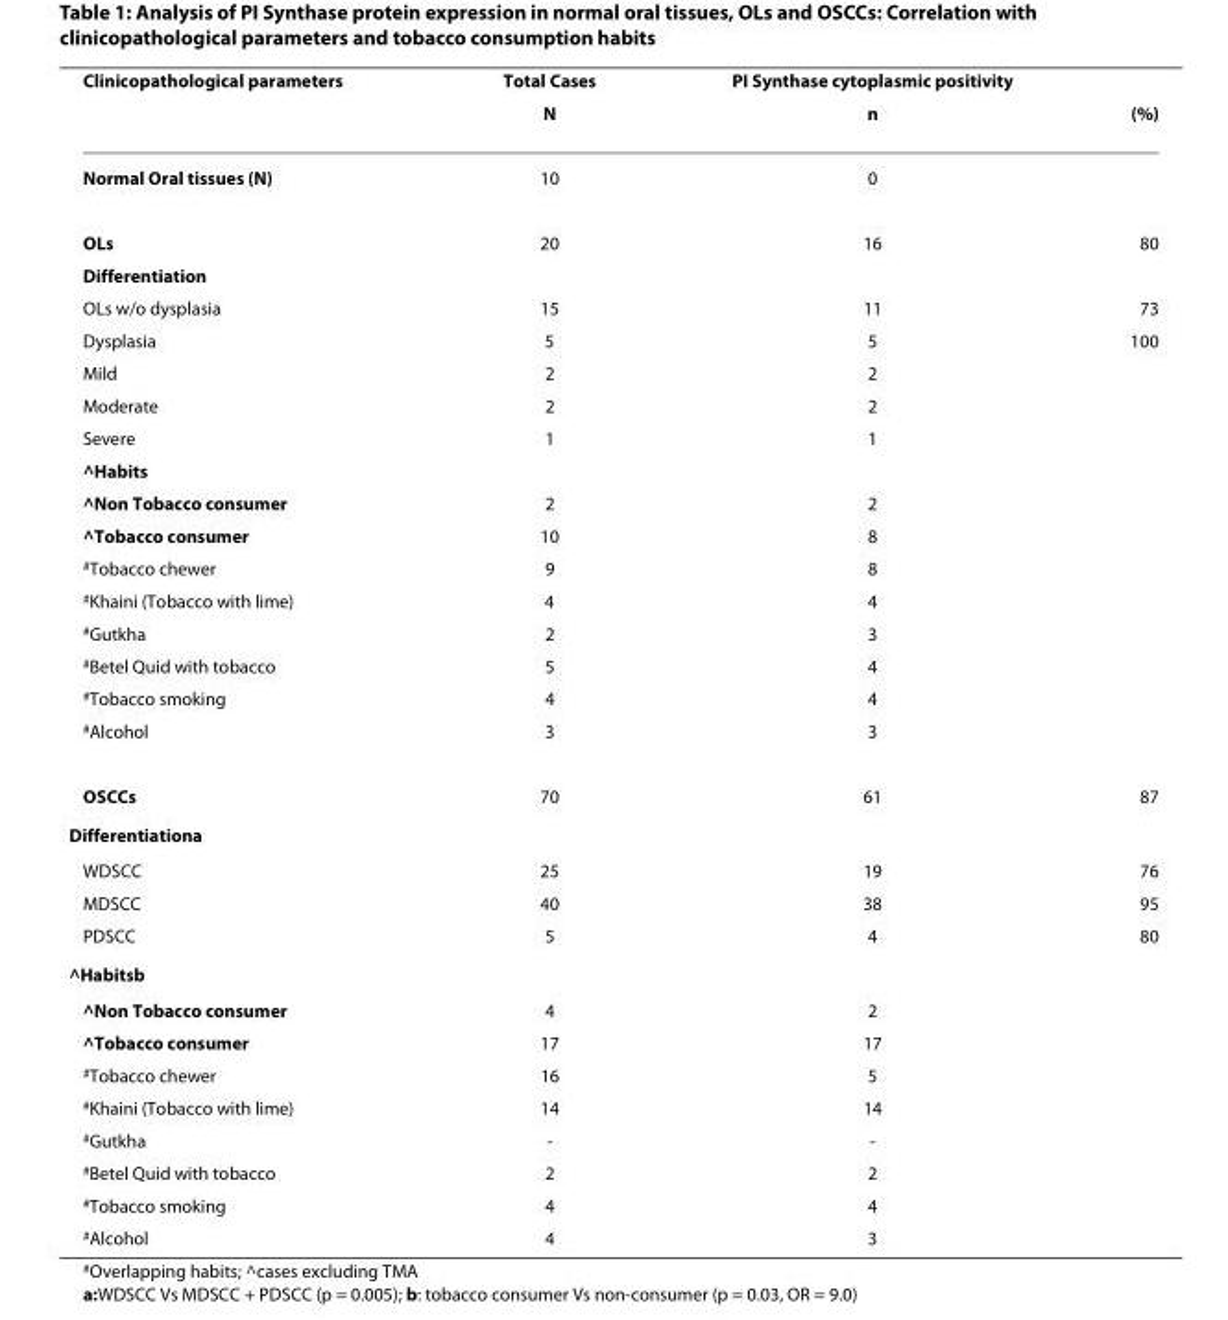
<table><thead><tr><td rowspan="2">Clinicopathological parameters</td><td rowspan="2">Total Cases N</td><td rowspan="2">PI Synthase cytoplasmic positivity n</td><td rowspan="2">(%)</td></tr><tr></tr></thead><tbody><tr><td>Normal Oral tissues (N)</td><td>10</td><td>0</td><td></td></tr><tr><td>OLs</td><td>20</td><td>16</td><td>80</td></tr><tr><td colspan="4">Differentiation</td></tr><tr><td>OLs w/o dysplasia</td><td>15</td><td>11</td><td>73</td></tr><tr><td>Dysplasia</td><td>5</td><td>5</td><td>100</td></tr><tr><td>Mild</td><td>2</td><td>2</td><td></td></tr><tr><td>Moderate</td><td>2</td><td>2</td><td></td></tr><tr><td>Severe</td><td>1</td><td>1</td><td></td></tr><tr><td colspan="4">^Habits</td></tr><tr><td>^Non Tobacco consumer</td><td>2</td><td>2</td><td></td></tr><tr><td>^Tobacco consumer</td><td>10</td><td>8</td><td></td></tr><tr><td><sup>#</sup>Tobacco chewer</td><td>9</td><td>8</td><td></td></tr><tr><td><sup>#</sup>Khaini (Tobacco with lime)</td><td>4</td><td>4</td><td></td></tr><tr><td><sup>#</sup>Gutkha</td><td>2</td><td>3</td><td></td></tr><tr><td><sup>#</sup>Betel Quid with tobacco</td><td>5</td><td>4</td><td></td></tr><tr><td><sup>#</sup>Tobacco smoking</td><td>4</td><td>4</td><td></td></tr><tr><td><sup>#</sup>Alcohol</td><td>3</td><td>3</td><td></td></tr><tr><td>OSCCs</td><td>70</td><td>61</td><td>87</td></tr><tr><td colspan="4">Differentiation<sup>a</sup></td></tr><tr><td>WDSCC</td><td>25</td><td>19</td><td>76</td></tr><tr><td>MDSCC</td><td>40</td><td>38</td><td>95</td></tr><tr><td>PDSCC</td><td>5</td><td>4</td><td>80</td></tr><tr><td colspan="4">^Habits<sup>b</sup></td></tr><tr><td>^Non Tobacco consumer</td><td>4</td><td>2</td><td></td></tr><tr><td>^Tobacco consumer</td><td>17</td><td>17</td><td></td></tr><tr><td><sup>#</sup>Tobacco chewer</td><td>16</td><td>5</td><td></td></tr><tr><td><sup>#</sup>Khaini (Tobacco with lime)</td><td>14</td><td>14</td><td></td></tr><tr><td><sup>#</sup>Gutkha</td><td>-</td><td>-</td><td></td></tr><tr><td><sup>#</sup>Betel Quid with tobacco</td><td>2</td><td>2</td><td></td></tr><tr><td><sup>#</sup>Tobacco smoking</td><td>4</td><td>4</td><td></td></tr><tr><td><sup>#</sup>Alcohol</td><td>4</td><td>3</td><td></td></tr></tbody></table>